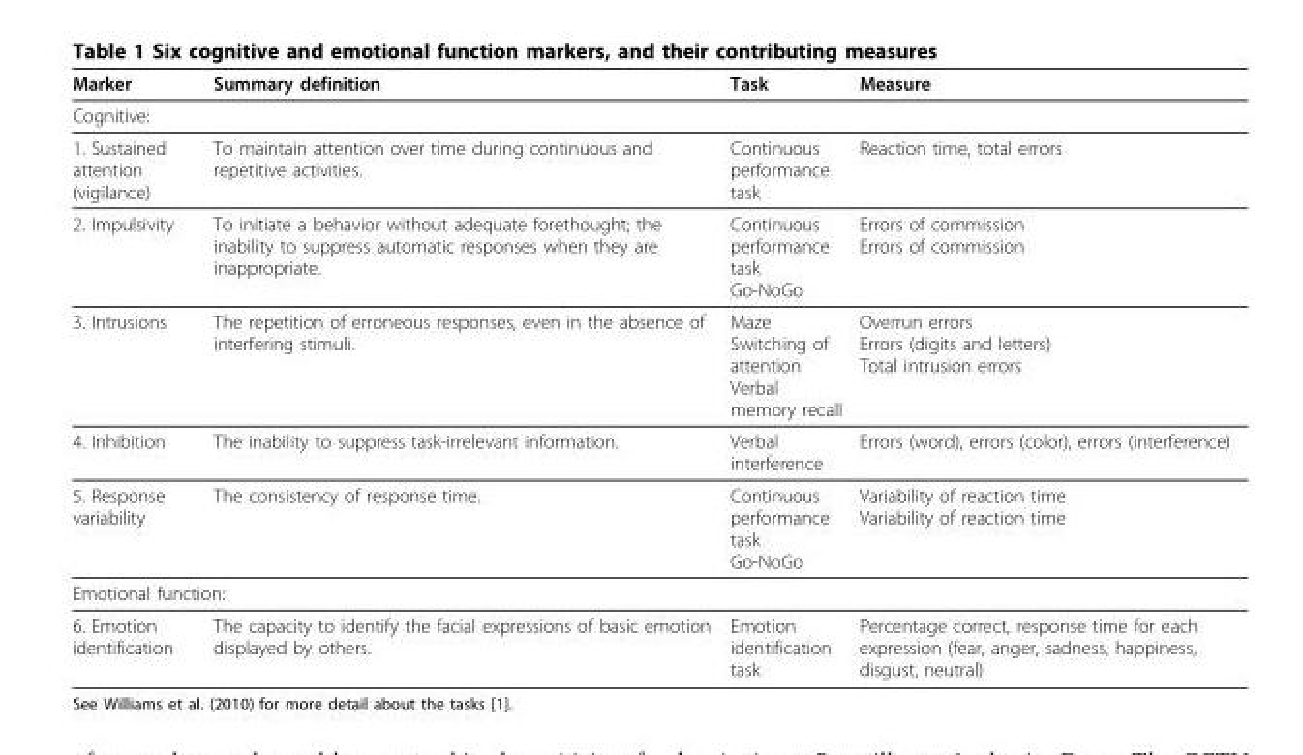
<table><thead><tr><td>Marker</td><td>Summary definition</td><td>Task</td><td>Measure</td></tr></thead><tbody><tr><td colspan="4">Cognitive:</td></tr><tr><td>1. Sustained attention (vigilance)</td><td>To maintain attention over time during continuous and repetitive activities.</td><td>Continuous performance task</td><td>Reaction time, total errors</td></tr><tr><td>2. Impulsivity</td><td>To initiate a behavior without adequate forethought; the inability to suppress automatic responses when they are inappropriate.</td><td>Continuous performance task Go-NoGo</td><td>Errors of commission Errors of commission</td></tr><tr><td>3. Intrusions</td><td>The repetition of erroneous responses, even in the absence of interfering stimuli.</td><td>Maze Switching of attention Verbal memory recall</td><td>Overrun errors Errors (digits and letters) Total intrusion errors</td></tr><tr><td>4. Inhibition</td><td>The inability to suppress task-irrelevant information.</td><td>Verbal interference</td><td>Errors (word), errors (color), errors (interference)</td></tr><tr><td>5. Response variability</td><td>The consistency of response time.</td><td>Continuous performance task Go-NoGo</td><td>Variability of reaction time Variability of reaction time</td></tr><tr><td colspan="4">Emotional function:</td></tr><tr><td>6. Emotion identification</td><td>The capacity to identify the facial expressions of basic emotion displayed by others.</td><td>Emotion identification task</td><td>Percentage correct, response time for each expression (fear, anger, sadness, happiness, disgust, neutral)</td></tr></tbody></table>